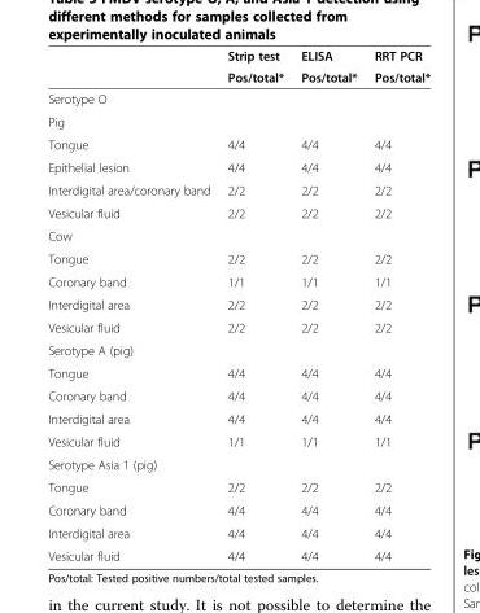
<table><thead><tr><td rowspan="2"></td><td rowspan="2">Strip test Pos/total*</td><td rowspan="2">ELISA Pos/total*</td><td rowspan="2">RRT PCR Pos/total*</td></tr><tr></tr></thead><tbody><tr><td colspan="4">Serotype O</td></tr><tr><td colspan="4">Pig</td></tr><tr><td>Tongue</td><td>4/4</td><td>4/4</td><td>4/4</td></tr><tr><td>Epithelial lesion</td><td>4/4</td><td>4/4</td><td>4/4</td></tr><tr><td>Interdigital area/coronary band</td><td>2/2</td><td>2/2</td><td>2/2</td></tr><tr><td>Vesicular fluid</td><td>2/2</td><td>2/2</td><td>2/2</td></tr><tr><td colspan="4">Cow</td></tr><tr><td>Tongue</td><td>2/2</td><td>2/2</td><td>2/2</td></tr><tr><td>Coronary band</td><td>1/1</td><td>1/1</td><td>1/1</td></tr><tr><td>Interdigital area</td><td>2/2</td><td>2/2</td><td>2/2</td></tr><tr><td>Vesicular fluid</td><td>2/2</td><td>2/2</td><td>2/2</td></tr><tr><td colspan="4">Serotype A (pig)</td></tr><tr><td>Tongue</td><td>4/4</td><td>4/4</td><td>4/4</td></tr><tr><td>Coronary band</td><td>4/4</td><td>4/4</td><td>4/4</td></tr><tr><td>Interdigital area</td><td>4/4</td><td>4/4</td><td>4/4</td></tr><tr><td>Vesicular fluid</td><td>1/1</td><td>1/1</td><td>1/1</td></tr><tr><td colspan="4">Serotype Asia 1 (pig)</td></tr><tr><td>Tongue</td><td>2/2</td><td>2/2</td><td>2/2</td></tr><tr><td>Coronary band</td><td>4/4</td><td>4/4</td><td>4/4</td></tr><tr><td>Interdigital area</td><td>4/4</td><td>4/4</td><td>4/4</td></tr><tr><td>Vesicular fluid</td><td>4/4</td><td>4/4</td><td>4/4</td></tr></tbody></table>